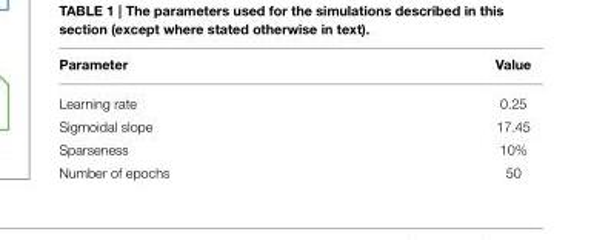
<table><thead><tr><td>Parameter</td><td>Value</td></tr></thead><tbody><tr><td>Learning rate</td><td>0.25</td></tr><tr><td>Sigmoidal slope</td><td>17.45</td></tr><tr><td>Sparseness</td><td>10%</td></tr><tr><td>Number of epochs</td><td>50</td></tr></tbody></table>